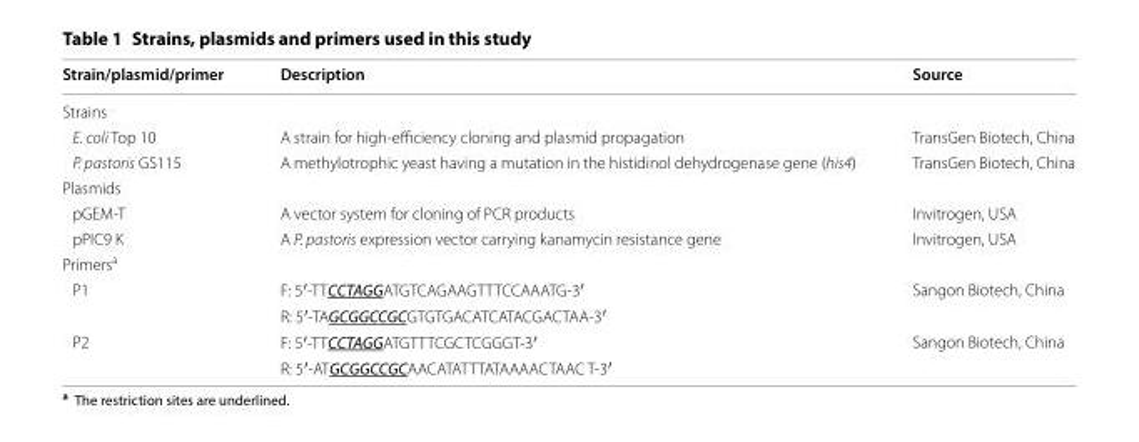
<table><thead><tr><td>Strain/plasmid/primer</td><td>Description</td><td>Source</td></tr></thead><tbody><tr><td colspan="3">Strains</td></tr><tr><td>E. coli Top 10</td><td>A strain for high-efficiency cloning and plasmid propagation</td><td>TransGen Biotech, China</td></tr><tr><td>P. pastoris GS115</td><td>A methylotrophic yeast having a mutation in the histidinol dehydrogenase gene (his4)</td><td>TransGen Biotech, China</td></tr><tr><td colspan="3">Plasmids</td></tr><tr><td>pGEM-T</td><td>A vector system for cloning of PCR products</td><td>Invitrogen, USA</td></tr><tr><td>pPIC9 K</td><td>A P. pastoris expression vector carrying kanamycin resistance gene</td><td>Invitrogen, USA</td></tr><tr><td colspan="3">Primers<sup>a</sup></td></tr><tr><td rowspan="2">P1</td><td>F: 5′-TTCCTAGGATGTCAGAAGTTTCCAAATG-3′</td><td rowspan="2">Sangon Biotech, China</td></tr><tr><td>R: 5′-TAGCGGCCGCGTGTGACATCATACGACTAA-3′</td></tr><tr><td rowspan="2">P2</td><td>F: 5′-TTCCTAGGATGTTTCGCTCGGGT-3′</td><td rowspan="2">Sangon Biotech, China</td></tr><tr><td>R: 5′-ATGCGGCCGCAACATATTTATAAAACTAAC T-3′</td></tr></tbody></table>